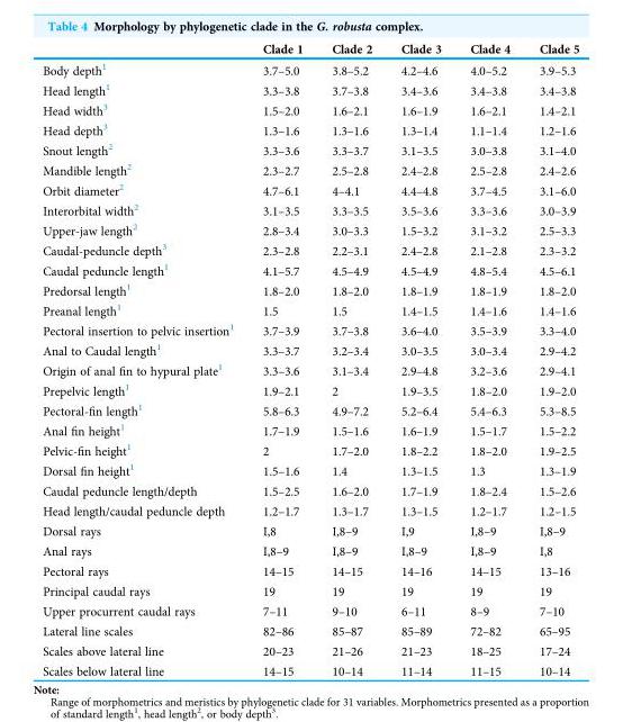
<table><thead><tr><td></td><td>Clade 1</td><td>Clade 2</td><td>Clade 3</td><td>Clade 4</td><td>Clade 5</td></tr></thead><tbody><tr><td>Body depth<sup>1</sup></td><td>3.7–5.0</td><td>3.8–5.2</td><td>4.2–4.6</td><td>4.0–5.2</td><td>3.9–5.3</td></tr><tr><td>Head length<sup>1</sup></td><td>3.3–3.8</td><td>3.7–3.8</td><td>3.4–3.6</td><td>3.4–3.8</td><td>3.4–3.8</td></tr><tr><td>Head width<sup>3</sup></td><td>1.5–2.0</td><td>1.6–2.1</td><td>1.6–1.9</td><td>1.6–2.1</td><td>1.4–2.1</td></tr><tr><td>Head depth<sup>3</sup></td><td>1.3–1.6</td><td>1.3–1.6</td><td>1.3–1.4</td><td>1.1–1.4</td><td>1.2–1.6</td></tr><tr><td>Snout length<sup>2</sup></td><td>3.3–3.6</td><td>3.3–3.7</td><td>3.1–3.5</td><td>3.0–3.8</td><td>3.1–4.0</td></tr><tr><td>Mandible length<sup>2</sup></td><td>2.3–2.7</td><td>2.5–2.8</td><td>2.4–2.8</td><td>2.5–2.8</td><td>2.4–2.6</td></tr><tr><td>Orbit diameter<sup>2</sup></td><td>4.7–6.1</td><td>4–4.1</td><td>4.4–4.8</td><td>3.7–4.5</td><td>3.1–6.0</td></tr><tr><td>Interorbital width<sup>2</sup></td><td>3.1–3.5</td><td>3.3–3.5</td><td>3.5–3.6</td><td>3.3–3.6</td><td>3.0–3.9</td></tr><tr><td>Upper-jaw length<sup>2</sup></td><td>2.8–3.4</td><td>3.0–3.3</td><td>1.5–3.2</td><td>3.1–3.2</td><td>2.5–3.3</td></tr><tr><td>Caudal-peduncle depth<sup>3</sup></td><td>2.3–2.8</td><td>2.2–3.1</td><td>2.4–2.8</td><td>2.1–2.8</td><td>2.3–3.2</td></tr><tr><td>Caudal peduncle length<sup>1</sup></td><td>4.1–5.7</td><td>4.5–4.9</td><td>4.5–4.9</td><td>4.8–5.4</td><td>4.5–6.1</td></tr><tr><td>Predorsal length<sup>1</sup></td><td>1.8–2.0</td><td>1.8–2.0</td><td>1.8–1.9</td><td>1.8–1.9</td><td>1.8–2.0</td></tr><tr><td>Preanal length<sup>1</sup></td><td>1.5</td><td>1.5</td><td>1.4–1.5</td><td>1.4–1.6</td><td>1.4–1.6</td></tr><tr><td>Pectoral insertion to pelvic insertion<sup>1</sup></td><td>3.7–3.9</td><td>3.7–3.8</td><td>3.6–4.0</td><td>3.5–3.9</td><td>3.3–4.0</td></tr><tr><td>Anal to Caudal length<sup>1</sup></td><td>3.3–3.7</td><td>3.2–3.4</td><td>3.0–3.5</td><td>3.0–3.4</td><td>2.9–4.2</td></tr><tr><td>Origin of anal fin to hypural plate<sup>1</sup></td><td>3.3–3.6</td><td>3.1–3.4</td><td>2.9–4.8</td><td>3.2–3.6</td><td>2.9–4.1</td></tr><tr><td>Prepelvic length<sup>1</sup></td><td>1.9–2.1</td><td>2</td><td>1.9–3.5</td><td>1.8–2.0</td><td>1.9–2.0</td></tr><tr><td>Pectoral-fin length<sup>1</sup></td><td>5.8–6.3</td><td>4.9–7.2</td><td>5.2–6.4</td><td>5.4–6.3</td><td>5.3–8.5</td></tr><tr><td>Anal fin height<sup>1</sup></td><td>1.7–1.9</td><td>1.5–1.6</td><td>1.6–1.9</td><td>1.5–1.7</td><td>1.5–2.2</td></tr><tr><td>Pelvic-fin height<sup>1</sup></td><td>2</td><td>1.7–2.0</td><td>1.8–2.2</td><td>1.8–2.0</td><td>1.9–2.5</td></tr><tr><td>Dorsal fin height<sup>1</sup></td><td>1.5–1.6</td><td>1.4</td><td>1.3–1.5</td><td>1.3</td><td>1.3–1.9</td></tr><tr><td>Caudal peduncle length/depth</td><td>1.5–2.5</td><td>1.6–2.0</td><td>1.7–1.9</td><td>1.8–2.4</td><td>1.5–2.6</td></tr><tr><td>Head length/caudal peduncle depth</td><td>1.2–1.7</td><td>1.3–1.7</td><td>1.3–1.5</td><td>1.2–1.7</td><td>1.2–1.5</td></tr><tr><td>Dorsal rays</td><td>I,8</td><td>I,8–9</td><td>I,9</td><td>I,8–9</td><td>I,8–9</td></tr><tr><td>Anal rays</td><td>I,8–9</td><td>I,8–9</td><td>I,8–9</td><td>I,8–9</td><td>I,8</td></tr><tr><td>Pectoral rays</td><td>14–15</td><td>14–15</td><td>14–16</td><td>14–15</td><td>13–16</td></tr><tr><td>Principal caudal rays</td><td>19</td><td>19</td><td>19</td><td>19</td><td>19</td></tr><tr><td>Upper procurrent caudal rays</td><td>7–11</td><td>9–10</td><td>6–11</td><td>8–9</td><td>7–10</td></tr><tr><td>Lateral line scales</td><td>82–86</td><td>85–87</td><td>85–89</td><td>72–82</td><td>65–95</td></tr><tr><td>Scales above lateral line</td><td>20–23</td><td>21–26</td><td>21–23</td><td>18–25</td><td>17–24</td></tr><tr><td>Scales below lateral line</td><td>14–15</td><td>10–14</td><td>11–14</td><td>11–15</td><td>10–14</td></tr></tbody></table>